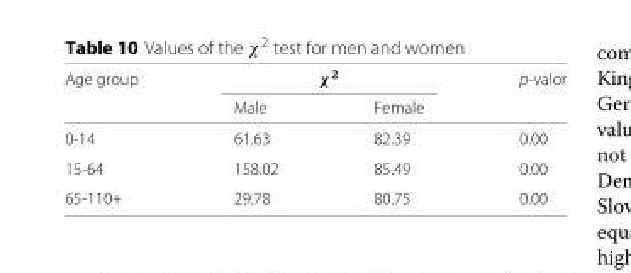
<table><thead><tr><td rowspan="2">Age group</td><td colspan="2">χ<sup>2</sup></td><td rowspan="2">p-valor</td></tr><tr><td>Male</td><td>Female</td></tr></thead><tbody><tr><td>0-14</td><td>61.63</td><td>82.39</td><td>0.00</td></tr><tr><td>15-64</td><td>158.02</td><td>85.49</td><td>0.00</td></tr><tr><td>65-110+</td><td>29.78</td><td>80.75</td><td>0.00</td></tr></tbody></table>